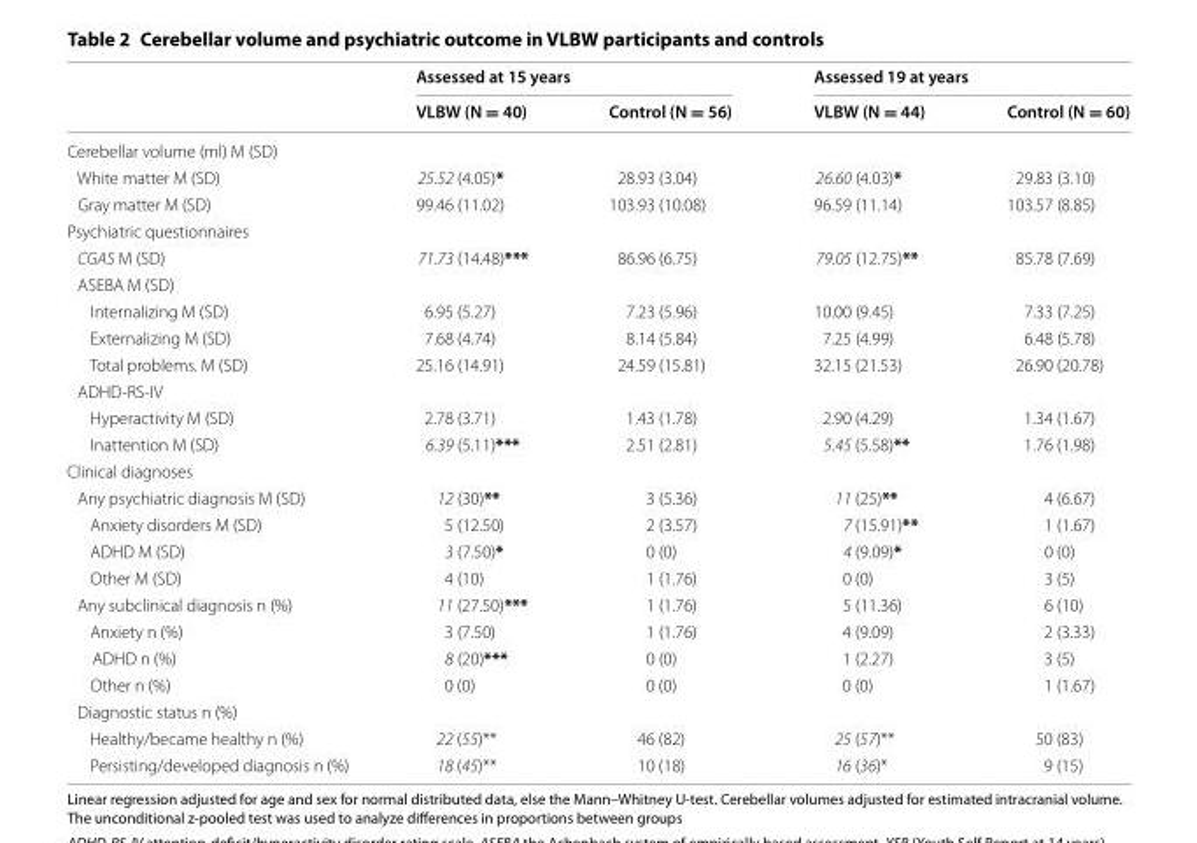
<table><thead><tr><td rowspan="2"></td><td colspan="2">Assessed at 15 years</td><td colspan="2">Assessed 19 at years</td></tr><tr><td>VLBW (N = 40)</td><td>Control (N = 56)</td><td>VLBW (N = 44)</td><td>Control (N = 60)</td></tr></thead><tbody><tr><td colspan="5">Cerebellar volume (ml) M (SD)</td></tr><tr><td>White matter M (SD)</td><td>25.52 (4.05)*</td><td>28.93 (3.04)</td><td>26.60 (4.03)*</td><td>29.83 (3.10)</td></tr><tr><td>Gray matter M (SD)</td><td>99.46 (11.02)</td><td>103.93 (10.08)</td><td>96.59 (11.14)</td><td>103.57 (8.85)</td></tr><tr><td colspan="5">Psychiatric questionnaires</td></tr><tr><td>CGAS M (SD)</td><td>71.73 (14.48)***</td><td>86.96 (6.75)</td><td>79.05 (12.75)**</td><td>85.78 (7.69)</td></tr><tr><td colspan="5">ASEBA M (SD)</td></tr><tr><td>Internalizing M (SD)</td><td>6.95 (5.27)</td><td>7.23 (5.96)</td><td>10.00 (9.45)</td><td>7.33 (7.25)</td></tr><tr><td>Externalizing M (SD)</td><td>7.68 (4.74)</td><td>8.14 (5.84)</td><td>7.25 (4.99)</td><td>6.48 (5.78)</td></tr><tr><td>Total problems. M (SD)</td><td>25.16 (14.91)</td><td>24.59 (15.81)</td><td>32.15 (21.53)</td><td>26.90 (20.78)</td></tr><tr><td colspan="5">ADHD‑RS‑IV</td></tr><tr><td>Hyperactivity M (SD)</td><td>2.78 (3.71)</td><td>1.43 (1.78)</td><td>2.90 (4.29)</td><td>1.34 (1.67)</td></tr><tr><td>Inattention M (SD)</td><td>6.39 (5.11)***</td><td>2.51 (2.81)</td><td>5.45 (5.58)**</td><td>1.76 (1.98)</td></tr><tr><td colspan="5">Clinical diagnoses</td></tr><tr><td>Any psychiatric diagnosis M (SD)</td><td>12 (30)**</td><td>3 (5.36)</td><td>11 (25)**</td><td>4 (6.67)</td></tr><tr><td>Anxiety disorders M (SD)</td><td>5 (12.50)</td><td>2 (3.57)</td><td>7 (15.91)**</td><td>1 (1.67)</td></tr><tr><td>ADHD M (SD)</td><td>3 (7.50)*</td><td>0 (0)</td><td>4 (9.09)*</td><td>0 (0)</td></tr><tr><td>Other M (SD)</td><td>4 (10)</td><td>1 (1.76)</td><td>0 (0)</td><td>3 (5)</td></tr><tr><td>Any subclinical diagnosis n (%)</td><td>11 (27.50)***</td><td>1 (1.76)</td><td>5 (11.36)</td><td>6 (10)</td></tr><tr><td>Anxiety n (%)</td><td>3 (7.50)</td><td>1 (1.76)</td><td>4 (9.09)</td><td>2 (3.33)</td></tr><tr><td>ADHD n (%)</td><td>8 (20)***</td><td>0 (0)</td><td>1 (2.27)</td><td>3 (5)</td></tr><tr><td>Other n (%)</td><td>0 (0)</td><td>0 (0)</td><td>0 (0)</td><td>1 (1.67)</td></tr><tr><td colspan="5">Diagnostic status n (%)</td></tr><tr><td>Healthy/became healthy n (%)</td><td>22 (55)**</td><td>46 (82)</td><td>25 (57)**</td><td>50 (83)</td></tr><tr><td>Persisting/developed diagnosis n (%)</td><td>18 (45)**</td><td>10 (18)</td><td>16 (36)*</td><td>9 (15)</td></tr></tbody></table>